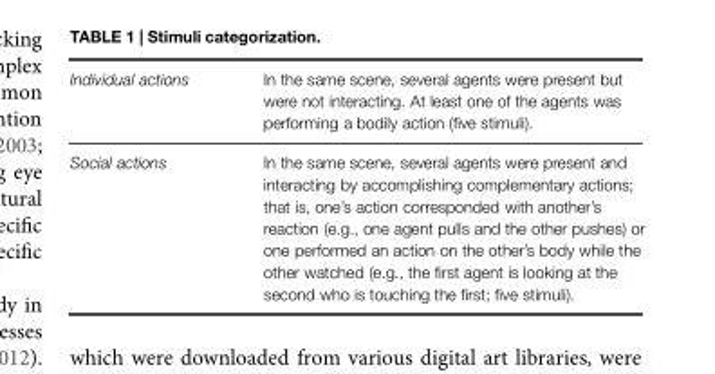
<table><tbody><tr><td>Individual actions</td><td>In the same scene, several agents were present but were not interacting. At least one of the agents was performing a bodily action (five stimuli).</td></tr><tr><td>Social actions</td><td>In the same scene, several agents were present and interacting by accomplishing complementary actions; that is, one’s action corresponded with another’s reaction (e.g., one agent pulls and the other pushes) or one performed an action on the other’s body while the other watched (e.g., the first agent is looking at the second who is touching the first; five stimuli).</td></tr></tbody></table>